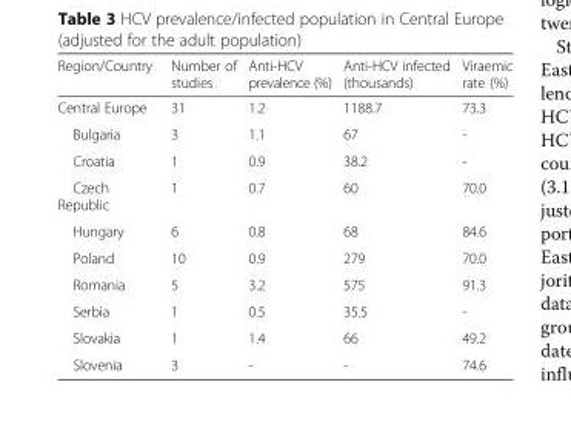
<table><thead><tr><td>Region/Country</td><td>Number of studies</td><td>Anti-HCV prevalence (%)</td><td>Anti-HCV infected (thousands)</td><td>Viraemic rate (%)</td></tr></thead><tbody><tr><td>Central Europe</td><td>31</td><td>1.2</td><td>1188.7</td><td>73.3</td></tr><tr><td>Bulgaria</td><td>3</td><td>1.1</td><td>67</td><td>-</td></tr><tr><td>Croatia</td><td>1</td><td>0.9</td><td>38.2</td><td>-</td></tr><tr><td>Czech Republic</td><td>1</td><td>0.7</td><td>60</td><td>70.0</td></tr><tr><td>Hungary</td><td>6</td><td>0.8</td><td>68</td><td>84.6</td></tr><tr><td>Poland</td><td>10</td><td>0.9</td><td>279</td><td>70.0</td></tr><tr><td>Romania</td><td>5</td><td>3.2</td><td>575</td><td>91.3</td></tr><tr><td>Serbia</td><td>1</td><td>0.5</td><td>35.5</td><td>-</td></tr><tr><td>Slovakia</td><td>1</td><td>1.4</td><td>66</td><td>49.2</td></tr><tr><td>Slovenia</td><td>3</td><td>-</td><td>-</td><td>74.6</td></tr></tbody></table>